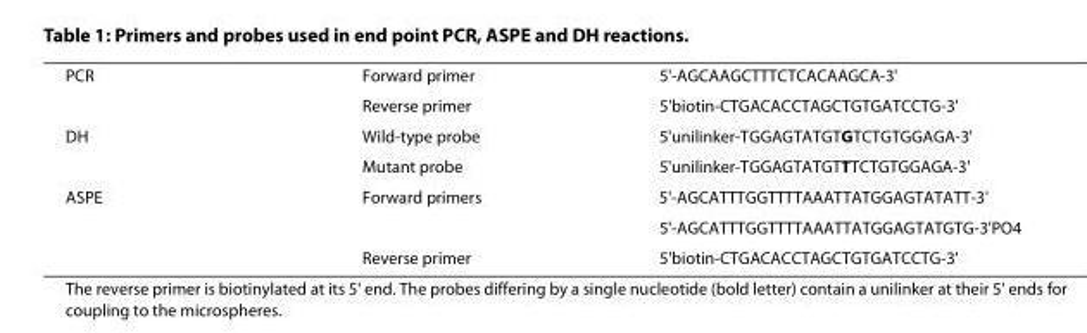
<table><tbody><tr><td rowspan="2">PCR</td><td>Forward primer</td><td>5&#x27;-AGCAAGCTTTCTCACAAGCA-3&#x27;</td></tr><tr><td>Reverse primer</td><td>5&#x27;biotin-CTGACACCTAGCTGTGATCCTG-3&#x27;</td></tr><tr><td rowspan="2">DH</td><td>Wild-type probe</td><td>5&#x27;unilinker-TGGAGTATGTGTCTGTGGAGA-3&#x27;</td></tr><tr><td>Mutant probe</td><td>5&#x27;unilinker-TGGAGTATGTTTCTGTGGAGA-3&#x27;</td></tr><tr><td rowspan="3">ASPE</td><td>Forward primers</td><td>5&#x27;-AGCATTTGGTTTTAAATTATGGAGTATATT-3&#x27;</td></tr><tr><td></td><td>5&#x27;-AGCATTTGGTTTTAAATTATGGAGTATGTG-3&#x27;PO4</td></tr><tr><td>Reverse primer</td><td>5&#x27;biotin-CTGACACCTAGCTGTGATCCTG-3&#x27;</td></tr></tbody></table>